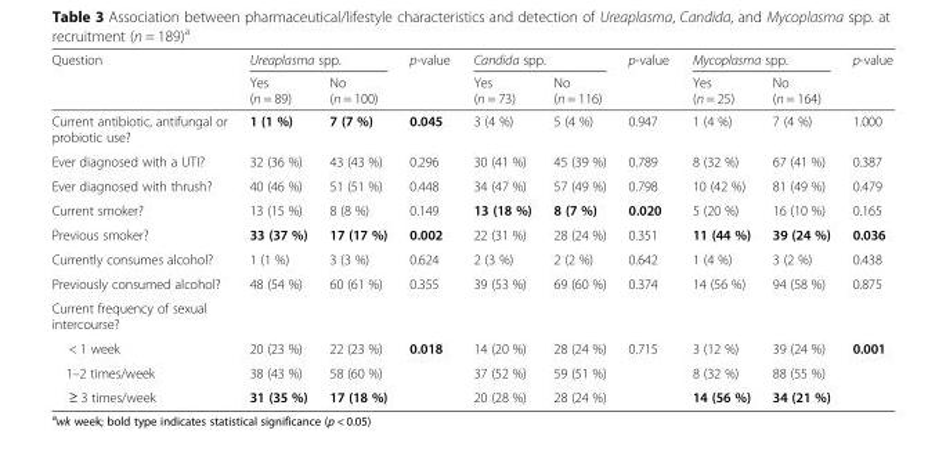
<table><thead><tr><td rowspan="2">Question</td><td colspan="2">Ureaplasma spp.</td><td rowspan="2">p-value</td><td colspan="2">Candida spp.</td><td rowspan="2">p-value</td><td colspan="2">Mycoplasma spp.</td><td rowspan="2">p-value</td></tr><tr><td>Yes (n = 89)</td><td>No (n = 100)</td><td>Yes (n = 73)</td><td>No (n = 116)</td><td>Yes (n = 25)</td><td>No (n = 164)</td></tr></thead><tbody><tr><td>Current antibiotic, antifungal or probiotic use?</td><td>1 (1 %)</td><td>7 (7 %)</td><td>0.045</td><td>3 (4 %)</td><td>5 (4 %)</td><td>0.947</td><td>1 (4 %)</td><td>7 (4 %)</td><td>1.000</td></tr><tr><td>Ever diagnosed with a UTI?</td><td>32 (36 %)</td><td>43 (43 %)</td><td>0.296</td><td>30 (41 %)</td><td>45 (39 %)</td><td>0.789</td><td>8 (32 %)</td><td>67 (41 %)</td><td>0.387</td></tr><tr><td>Ever diagnosed with thrush?</td><td>40 (46 %)</td><td>51 (51 %)</td><td>0.448</td><td>34 (47 %)</td><td>57 (49 %)</td><td>0.798</td><td>10 (42 %)</td><td>81 (49 %)</td><td>0.479</td></tr><tr><td>Current smoker?</td><td>13 (15 %)</td><td>8 (8 %)</td><td>0.149</td><td>13 (18 %)</td><td>8 (7 %)</td><td>0.020</td><td>5 (20 %)</td><td>16 (10 %)</td><td>0.165</td></tr><tr><td>Previous smoker?</td><td>33 (37 %)</td><td>17 (17 %)</td><td>0.002</td><td>22 (31 %)</td><td>28 (24 %)</td><td>0.351</td><td>11 (44 %)</td><td>39 (24 %)</td><td>0.036</td></tr><tr><td>Currently consumes alcohol?</td><td>1 (1 %)</td><td>3 (3 %)</td><td>0.624</td><td>2 (3 %)</td><td>2 (2 %)</td><td>0.642</td><td>1 (4 %)</td><td>3 (2 %)</td><td>0.438</td></tr><tr><td>Previously consumed alcohol?</td><td>48 (54 %)</td><td>60 (61 %)</td><td>0.355</td><td>39 (53 %)</td><td>69 (60 %)</td><td>0.374</td><td>14 (56 %)</td><td>94 (58 %)</td><td>0.875</td></tr><tr><td colspan="10">Current frequency of sexual intercourse?</td></tr><tr><td>&lt; 1 week</td><td>20 (23 %)</td><td>22 (23 %)</td><td>0.018</td><td>14 (20 %)</td><td>28 (24 %)</td><td>0.715</td><td>3 (12 %)</td><td>39 (24 %)</td><td>0.001</td></tr><tr><td>1–2 times/week</td><td>38 (43 %)</td><td>58 (60 %)</td><td></td><td>37 (52 %)</td><td>59 (51 %)</td><td></td><td>8 (32 %)</td><td>88 (55 %)</td><td></td></tr><tr><td>≥ 3 times/week</td><td>31 (35 %)</td><td>17 (18 %)</td><td></td><td>20 (28 %)</td><td>28 (24 %)</td><td></td><td>14 (56 %)</td><td>34 (21 %)</td><td></td></tr></tbody></table>